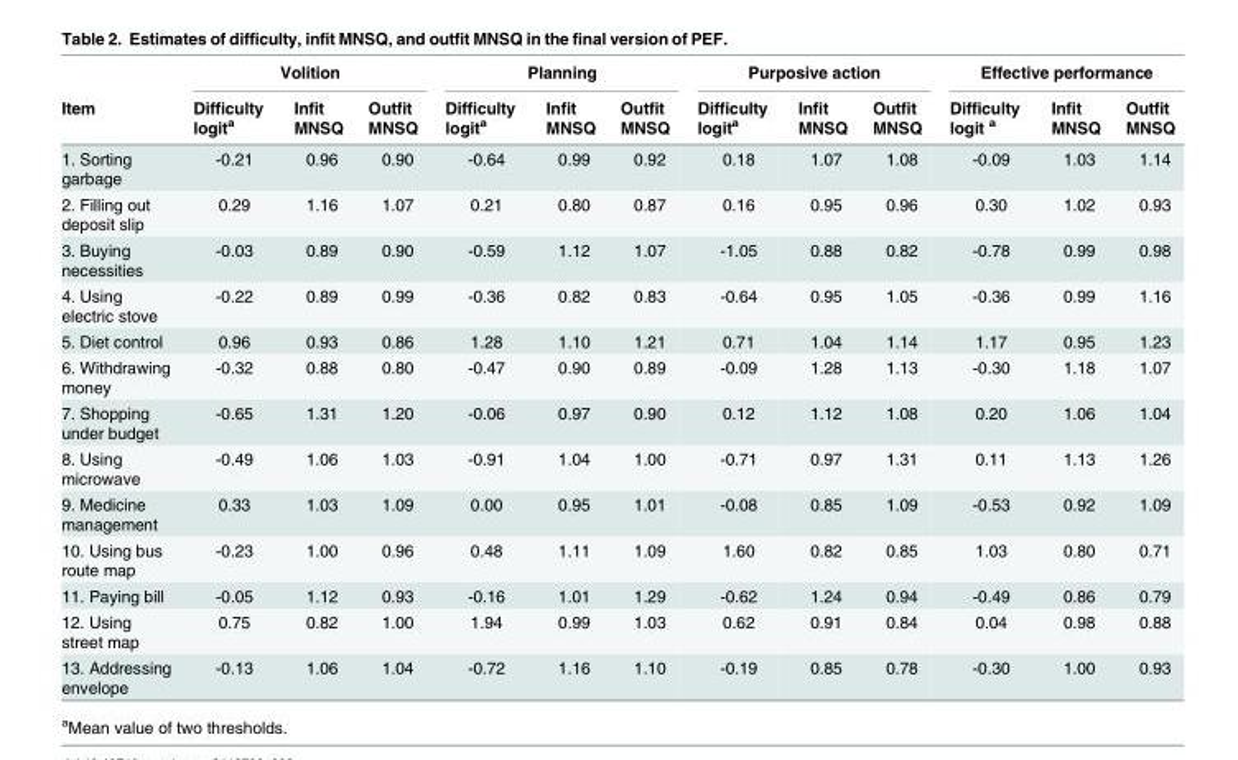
<table><thead><tr><td rowspan="2">Item</td><td colspan="3">Volition</td><td colspan="3">Planning</td><td colspan="3">Purposive action</td><td colspan="3">Effective performance</td></tr><tr><td>Difficulty logit<sup>a</sup></td><td>Infit MNSQ</td><td>Outfit MNSQ</td><td>Difficulty logit<sup>a</sup></td><td>Infit MNSQ</td><td>Outfit MNSQ</td><td>Difficulty logit<sup>a</sup></td><td>Infit MNSQ</td><td>Outfit MNSQ</td><td>Difficulty logit <sup>a</sup></td><td>Infit MNSQ</td><td>Outfit MNSQ</td></tr></thead><tbody><tr><td>1. Sorting garbage</td><td>-0.21</td><td>0.96</td><td>0.90</td><td>-0.64</td><td>0.99</td><td>0.92</td><td>0.18</td><td>1.07</td><td>1.08</td><td>-0.09</td><td>1.03</td><td>1.14</td></tr><tr><td>2. Filling out deposit slip</td><td>0.29</td><td>1.16</td><td>1.07</td><td>0.21</td><td>0.80</td><td>0.87</td><td>0.16</td><td>0.95</td><td>0.96</td><td>0.30</td><td>1.02</td><td>0.93</td></tr><tr><td>3. Buying necessities</td><td>-0.03</td><td>0.89</td><td>0.90</td><td>-0.59</td><td>1.12</td><td>1.07</td><td>-1.05</td><td>0.88</td><td>0.82</td><td>-0.78</td><td>0.99</td><td>0.98</td></tr><tr><td>4. Using electric stove</td><td>-0.22</td><td>0.89</td><td>0.99</td><td>-0.36</td><td>0.82</td><td>0.83</td><td>-0.64</td><td>0.95</td><td>1.05</td><td>-0.36</td><td>0.99</td><td>1.16</td></tr><tr><td>5. Diet control</td><td>0.96</td><td>0.93</td><td>0.86</td><td>1.28</td><td>1.10</td><td>1.21</td><td>0.71</td><td>1.04</td><td>1.14</td><td>1.17</td><td>0.95</td><td>1.23</td></tr><tr><td>6. Withdrawing money</td><td>-0.32</td><td>0.88</td><td>0.80</td><td>-0.47</td><td>0.90</td><td>0.89</td><td>-0.09</td><td>1.28</td><td>1.13</td><td>-0.30</td><td>1.18</td><td>1.07</td></tr><tr><td>7. Shopping under budget</td><td>-0.65</td><td>1.31</td><td>1.20</td><td>-0.06</td><td>0.97</td><td>0.90</td><td>0.12</td><td>1.12</td><td>1.08</td><td>0.20</td><td>1.06</td><td>1.04</td></tr><tr><td>8. Using microwave</td><td>-0.49</td><td>1.06</td><td>1.03</td><td>-0.91</td><td>1.04</td><td>1.00</td><td>-0.71</td><td>0.97</td><td>1.31</td><td>0.11</td><td>1.13</td><td>1.26</td></tr><tr><td>9. Medicine management</td><td>0.33</td><td>1.03</td><td>1.09</td><td>0.00</td><td>0.95</td><td>1.01</td><td>-0.08</td><td>0.85</td><td>1.09</td><td>-0.53</td><td>0.92</td><td>1.09</td></tr><tr><td>10. Using bus route map</td><td>-0.23</td><td>1.00</td><td>0.96</td><td>0.48</td><td>1.11</td><td>1.09</td><td>1.60</td><td>0.82</td><td>0.85</td><td>1.03</td><td>0.80</td><td>0.71</td></tr><tr><td>11. Paying bill</td><td>-0.05</td><td>1.12</td><td>0.93</td><td>-0.16</td><td>1.01</td><td>1.29</td><td>-0.62</td><td>1.24</td><td>0.94</td><td>-0.49</td><td>0.86</td><td>0.79</td></tr><tr><td>12. Using street map</td><td>0.75</td><td>0.82</td><td>1.00</td><td>1.94</td><td>0.99</td><td>1.03</td><td>0.62</td><td>0.91</td><td>0.84</td><td>0.04</td><td>0.98</td><td>0.88</td></tr><tr><td>13. Addressing envelope</td><td>-0.13</td><td>1.06</td><td>1.04</td><td>-0.72</td><td>1.16</td><td>1.10</td><td>-0.19</td><td>0.85</td><td>0.78</td><td>-0.30</td><td>1.00</td><td>0.93</td></tr></tbody></table>